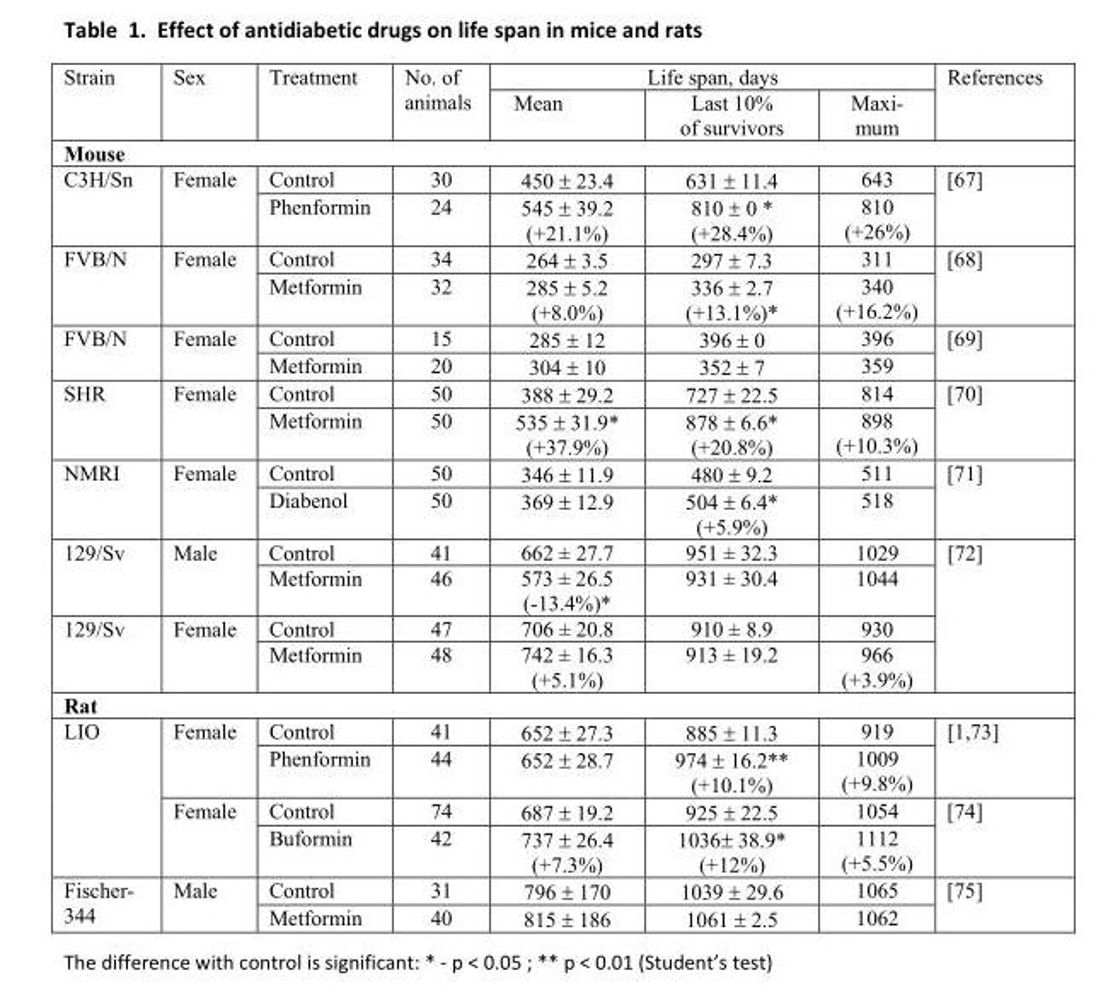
<table><thead><tr><td rowspan="2">Strain</td><td rowspan="2">Sex</td><td rowspan="2">Treatment</td><td rowspan="2">No. of animals</td><td colspan="3">Life span, days</td><td rowspan="2">References</td></tr><tr><td>Mean</td><td>Last 10% of survivors</td><td>Maxi- mum</td></tr></thead><tbody><tr><td colspan="8">Mouse</td></tr><tr><td rowspan="2">C3H/Sn</td><td rowspan="2">Female</td><td>Control</td><td>30</td><td>450 ± 23.4</td><td>631 ± 11.4</td><td>643</td><td rowspan="2">[67]</td></tr><tr><td>Phenformin</td><td>24</td><td>545 ± 39.2 (+21.1%)</td><td>810 ± 0 * (+28.4%)</td><td>810 (+26%)</td></tr><tr><td rowspan="2">FVB/N</td><td rowspan="2">Female</td><td>Control</td><td>34</td><td>264 ± 3.5</td><td>297 ± 7.3</td><td>311</td><td rowspan="2">[68]</td></tr><tr><td>Metformin</td><td>32</td><td>285 ± 5.2 (+8.0%)</td><td>336 ± 2.7 (+13.1%)*</td><td>340 (+16.2%)</td></tr><tr><td rowspan="2">FVB/N</td><td rowspan="2">Female</td><td>Control</td><td>15</td><td>285 ± 12</td><td>396 ± 0</td><td>396</td><td rowspan="2">[69]</td></tr><tr><td>Metformin</td><td>20</td><td>304 ± 10</td><td>352 ± 7</td><td>359</td></tr><tr><td rowspan="2">SHR</td><td rowspan="2">Female</td><td>Control</td><td>50</td><td>388 ± 29.2</td><td>727 ± 22.5</td><td>814</td><td rowspan="2">[70]</td></tr><tr><td>Metformin</td><td>50</td><td>535 ± 31.9* (+37.9%)</td><td>878 ± 6.6* (+20.8%)</td><td>898 (+10.3%)</td></tr><tr><td rowspan="2">NMRI</td><td rowspan="2">Female</td><td>Control</td><td>50</td><td>346 ± 11.9</td><td>480 ± 9.2</td><td>511</td><td rowspan="2">[71]</td></tr><tr><td>Diabenol</td><td>50</td><td>369 ± 12.9</td><td>504 ± 6.4* (+5.9%)</td><td>518</td></tr><tr><td rowspan="2">129/Sv</td><td rowspan="2">Male</td><td>Control</td><td>41</td><td>662 ± 27.7</td><td>951 ± 32.3</td><td>1029</td><td rowspan="4">[72]</td></tr><tr><td>Metformin</td><td>46</td><td>573 ± 26.5 (-13.4%)*</td><td>931 ± 30.4</td><td>1044</td></tr><tr><td rowspan="2">129/Sv</td><td rowspan="2">Female</td><td>Control</td><td>47</td><td>706 ± 20.8</td><td>910 ± 8.9</td><td>930</td></tr><tr><td>Metformin</td><td>48</td><td>742 ± 16.3 (+5.1%)</td><td>913 ± 19.2</td><td>966 (+3.9%)</td></tr><tr><td colspan="8">Rat</td></tr><tr><td rowspan="4">LIO</td><td rowspan="2">Female</td><td>Control</td><td>41</td><td>652 ± 27.3</td><td>885 ± 11.3</td><td>919</td><td rowspan="2">[1,73]</td></tr><tr><td>Phenformin</td><td>44</td><td>652 ± 28.7</td><td>974 ± 16.2** (+10.1%)</td><td>1009 (+9.8%)</td></tr><tr><td rowspan="2">Female</td><td>Control</td><td>74</td><td>687 ± 19.2</td><td>925 ± 22.5</td><td>1054</td><td rowspan="2">[74]</td></tr><tr><td>Buformin</td><td>42</td><td>737 ± 26.4 (+7.3%)</td><td>1036± 38.9* (+12%)</td><td>1112 (+5.5%)</td></tr><tr><td rowspan="2">Fischer- 344</td><td rowspan="2">Male</td><td>Control</td><td>31</td><td>796 ± 170</td><td>1039 ± 29.6</td><td>1065</td><td rowspan="2">[75]</td></tr><tr><td>Metformin</td><td>40</td><td>815 ± 186</td><td>1061 ± 2.5</td><td>1062</td></tr></tbody></table>